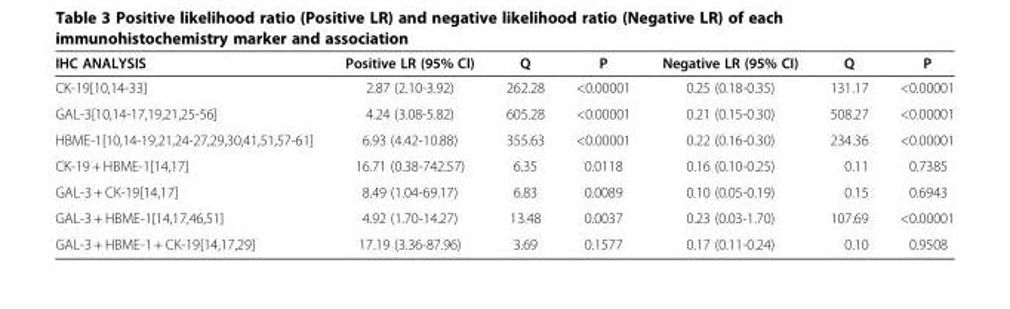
<table><thead><tr><td>IHC ANALYSIS</td><td>Positive LR (95% CI)</td><td>Q</td><td>P</td><td>Negative LR (95% CI)</td><td>Q</td><td>P</td></tr></thead><tbody><tr><td>CK-19[10,14-33]</td><td>2.87 (2.10-3.92)</td><td>262.28</td><td>&lt;0.00001</td><td>0.25 (0.18-0.35)</td><td>131.17</td><td>&lt;0.00001</td></tr><tr><td>GAL-3[10,14-17,19,21,25-56]</td><td>4.24 (3.08-5.82)</td><td>605.28</td><td>&lt;0.00001</td><td>0.21 (0.15-0.30)</td><td>508.27</td><td>&lt;0.00001</td></tr><tr><td>HBME-1[10,14-19,21,24-27,29,30,41,51,57-61]</td><td>6.93 (4.42-10.88)</td><td>355.63</td><td>&lt;0.00001</td><td>0.22 (0.16-0.30)</td><td>234.36</td><td>&lt;0.00001</td></tr><tr><td>CK-19 + HBME-1[14,17]</td><td>16.71 (0.38-742.57)</td><td>6.35</td><td>0.0118</td><td>0.16 (0.10-0.25)</td><td>0.11</td><td>0.7385</td></tr><tr><td>GAL-3 + CK-19[14,17]</td><td>8.49 (1.04-69.17)</td><td>6.83</td><td>0.0089</td><td>0.10 (0.05-0.19)</td><td>0.15</td><td>0.6943</td></tr><tr><td>GAL-3 + HBME-1[14,17,46,51]</td><td>4.92 (1.70-14.27)</td><td>13.48</td><td>0.0037</td><td>0.23 (0.03-1.70)</td><td>107.69</td><td>&lt;0.00001</td></tr><tr><td>GAL-3 + HBME-1 + CK-19[14,17,29]</td><td>17.19 (3.36-87.96)</td><td>3.69</td><td>0.1577</td><td>0.17 (0.11-0.24)</td><td>0.10</td><td>0.9508</td></tr></tbody></table>